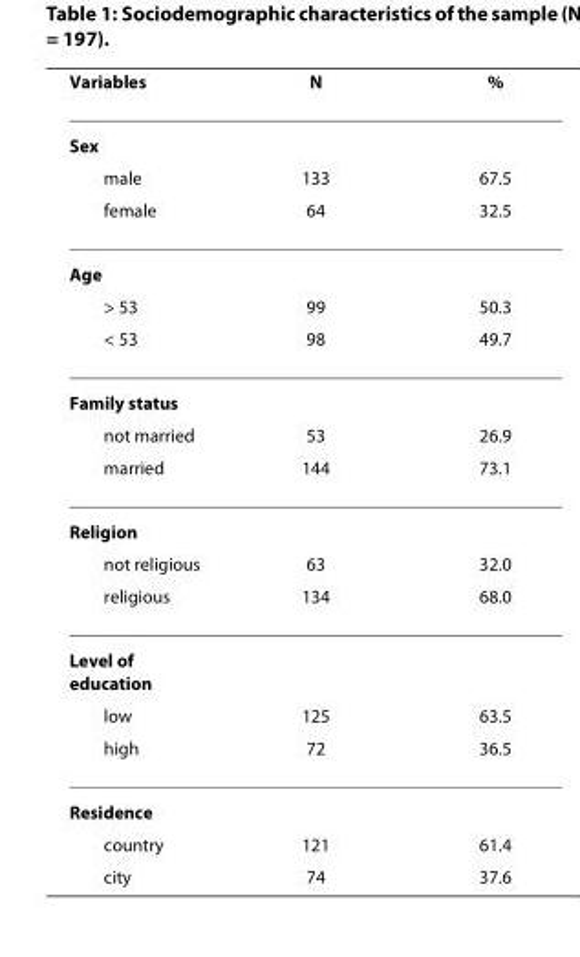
<table><thead><tr><td>Variables</td><td>N</td><td>%</td></tr></thead><tbody><tr><td colspan="3">Sex</td></tr><tr><td>male</td><td>133</td><td>67.5</td></tr><tr><td>female</td><td>64</td><td>32.5</td></tr><tr><td colspan="3">Age</td></tr><tr><td>&gt; 53</td><td>99</td><td>50.3</td></tr><tr><td>&lt; 53</td><td>98</td><td>49.7</td></tr><tr><td colspan="3">Family status</td></tr><tr><td>not married</td><td>53</td><td>26.9</td></tr><tr><td>married</td><td>144</td><td>73.1</td></tr><tr><td colspan="3">Religion</td></tr><tr><td>not religious</td><td>63</td><td>32.0</td></tr><tr><td>religious</td><td>134</td><td>68.0</td></tr><tr><td colspan="3">Level of education</td></tr><tr><td>low</td><td>125</td><td>63.5</td></tr><tr><td>high</td><td>72</td><td>36.5</td></tr><tr><td colspan="3">Residence</td></tr><tr><td>country</td><td>121</td><td>61.4</td></tr><tr><td>city</td><td>74</td><td>37.6</td></tr></tbody></table>